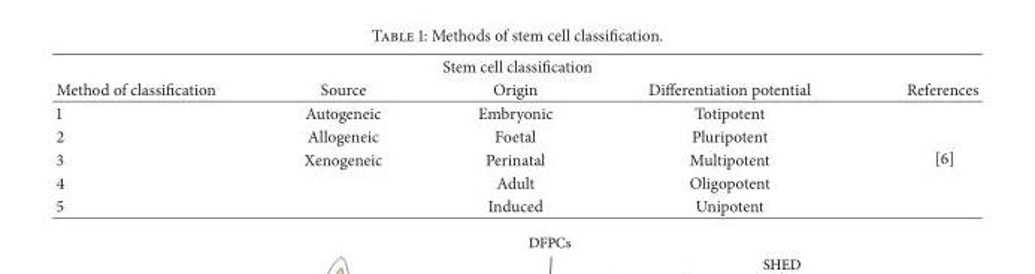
<table><thead><tr><td colspan="5">Stem cell classification</td></tr><tr><td>Method of classification</td><td>Source</td><td>Origin</td><td>Differentiation potential</td><td>References</td></tr></thead><tbody><tr><td>1</td><td>Autogeneic</td><td>Embryonic</td><td>Totipotent</td><td rowspan="5">[6]</td></tr><tr><td>2</td><td>Allogeneic</td><td>Foetal</td><td>Pluripotent</td></tr><tr><td>3</td><td>Xenogeneic</td><td>Perinatal</td><td>Multipotent</td></tr><tr><td>4</td><td></td><td>Adult</td><td>Oligopotent</td></tr><tr><td>5</td><td></td><td>Induced</td><td>Unipotent</td></tr></tbody></table>